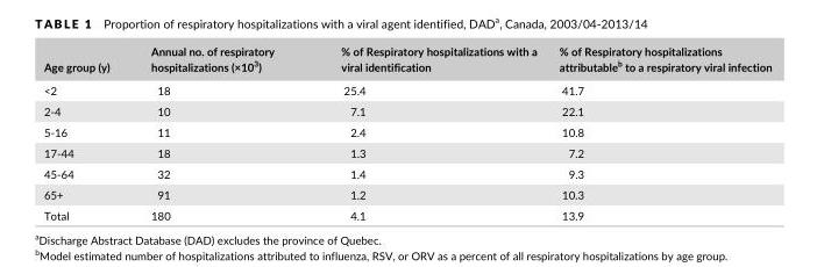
<table><thead><tr><td>Age group (y)</td><td>Annual no. of respiratory hospitalizations (×10<sup>3</sup>)</td><td>% of Respiratory hospitalizations with a viral identification</td><td>% of Respiratory hospitalizations attributable<sup>b</sup> to a respiratory viral infection</td></tr></thead><tbody><tr><td>&lt;2</td><td>18</td><td>25.4</td><td>41.7</td></tr><tr><td>2- 4</td><td>10</td><td>7.1</td><td>22.1</td></tr><tr><td>5- 16</td><td>11</td><td>2.4</td><td>10.8</td></tr><tr><td>17- 44</td><td>18</td><td>1.3</td><td>7.2</td></tr><tr><td>45- 64</td><td>32</td><td>1.4</td><td>9.3</td></tr><tr><td>65+</td><td>91</td><td>1.2</td><td>10.3</td></tr><tr><td>Total</td><td>180</td><td>4.1</td><td>13.9</td></tr></tbody></table>